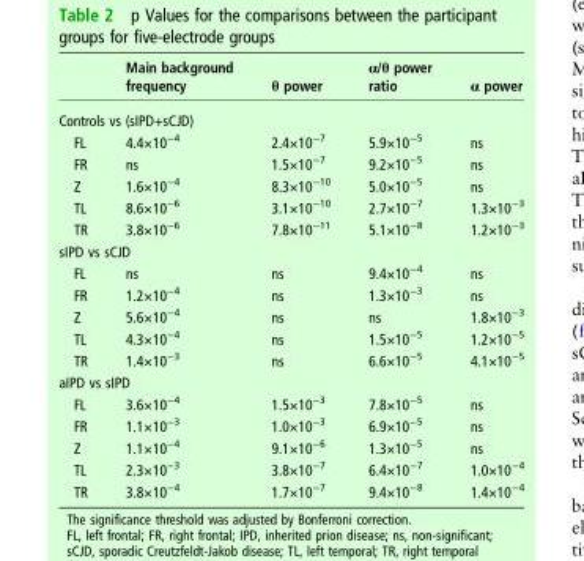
<table><thead><tr><td></td><td>Main background frequency</td><td>θ power</td><td>α/θ power ratio</td><td>α power</td></tr></thead><tbody><tr><td colspan="5">Controls vs (sIPD+sCJD)</td></tr><tr><td>FL</td><td>4.4×10<sup>−4</sup></td><td>2.4×10<sup>−7</sup></td><td>5.9×10<sup>−5</sup></td><td>ns</td></tr><tr><td>FR</td><td>ns</td><td>1.5×10<sup>−7</sup></td><td>9.2×10<sup>−5</sup></td><td>ns</td></tr><tr><td>Z</td><td>1.6×10<sup>−4</sup></td><td>8.3×10<sup>−10</sup></td><td>5.0×10<sup>−5</sup></td><td>ns</td></tr><tr><td>TL</td><td>8.6×10<sup>−6</sup></td><td>3.1×10<sup>−10</sup></td><td>2.7×10<sup>−7</sup></td><td>1.3×10<sup>−3</sup></td></tr><tr><td>TR</td><td>3.8×10<sup>−6</sup></td><td>7.8×10<sup>−11</sup></td><td>5.1×10<sup>−8</sup></td><td>1.2×10<sup>−3</sup></td></tr><tr><td colspan="5">sIPD vs sCJD</td></tr><tr><td>FL</td><td>ns</td><td>ns</td><td>9.4×10<sup>−4</sup></td><td>ns</td></tr><tr><td>FR</td><td>1.2×10<sup>−4</sup></td><td>ns</td><td>1.3×10<sup>−3</sup></td><td>ns</td></tr><tr><td>Z</td><td>5.6×10<sup>−4</sup></td><td>ns</td><td>ns</td><td>1.8×10<sup>−3</sup></td></tr><tr><td>TL</td><td>4.3×10<sup>−4</sup></td><td>ns</td><td>1.5×10<sup>−5</sup></td><td>1.2×10<sup>−5</sup></td></tr><tr><td>TR</td><td>1.4×10<sup>−3</sup></td><td>ns</td><td>6.6×10<sup>−5</sup></td><td>4.1×10<sup>−5</sup></td></tr><tr><td colspan="5">aIPD vs sIPD</td></tr><tr><td>FL</td><td>3.6×10<sup>−4</sup></td><td>1.5×10<sup>−3</sup></td><td>7.8×10<sup>−5</sup></td><td>ns</td></tr><tr><td>FR</td><td>1.1×10<sup>−3</sup></td><td>1.0×10<sup>−3</sup></td><td>6.9×10<sup>−5</sup></td><td>ns</td></tr><tr><td>Z</td><td>1.1×10<sup>−4</sup></td><td>9.1×10<sup>−6</sup></td><td>1.3×10<sup>−5</sup></td><td>ns</td></tr><tr><td>TL</td><td>2.3×10<sup>−3</sup></td><td>3.8×10<sup>−7</sup></td><td>6.4×10<sup>−7</sup></td><td>1.0×10<sup>−4</sup></td></tr><tr><td>TR</td><td>3.8×10<sup>−4</sup></td><td>1.7×10<sup>−7</sup></td><td>9.4×10<sup>−8</sup></td><td>1.4×10<sup>−4</sup></td></tr></tbody></table>